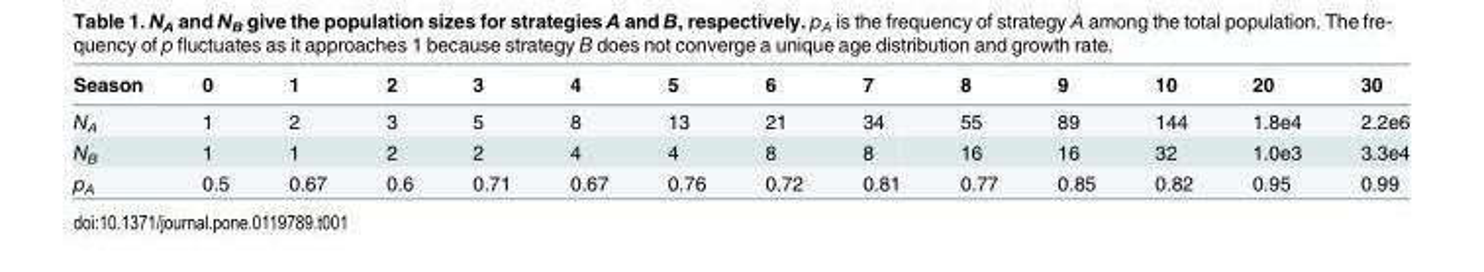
<table><thead><tr><td>Season</td><td>0</td><td>1</td><td>2</td><td>3</td><td>4</td><td>5</td><td>6</td><td>7</td><td>8</td><td>9</td><td>10</td><td>20</td><td>30</td></tr></thead><tbody><tr><td>N<sub>A</sub></td><td>1</td><td>2</td><td>3</td><td>5</td><td>8</td><td>13</td><td>21</td><td>34</td><td>55</td><td>89</td><td>144</td><td>1.8e4</td><td>2.2e6</td></tr><tr><td>N<sub>B</sub></td><td>1</td><td>1</td><td>2</td><td>2</td><td>4</td><td>4</td><td>8</td><td>8</td><td>16</td><td>16</td><td>32</td><td>1.0e3</td><td>3.3e4</td></tr><tr><td>p<sub>A</sub></td><td>0.5</td><td>0.67</td><td>0.6</td><td>0.71</td><td>0.67</td><td>0.76</td><td>0.72</td><td>0.81</td><td>0.77</td><td>0.85</td><td>0.82</td><td>0.95</td><td>0.99</td></tr></tbody></table>